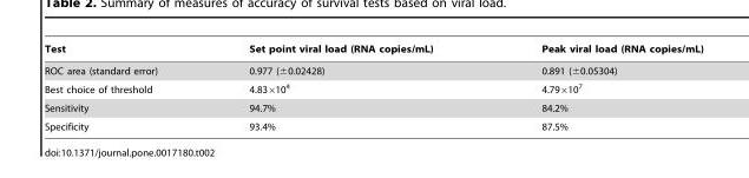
<table><thead><tr><td>Test</td><td>Set point viral load (RNA copies/mL)</td><td>Peak viral load (RNA copies/mL)</td></tr></thead><tbody><tr><td>ROC area (standard error)</td><td>0.977 (±0.02428)</td><td>0.891 (±0.05304)</td></tr><tr><td>Best choice of threshold</td><td>4.83×10<sup>4</sup></td><td>4.79×10<sup>7</sup></td></tr><tr><td>Sensitivity</td><td>94.7%</td><td>84.2%</td></tr><tr><td>Specificity</td><td>93.4%</td><td>87.5%</td></tr></tbody></table>